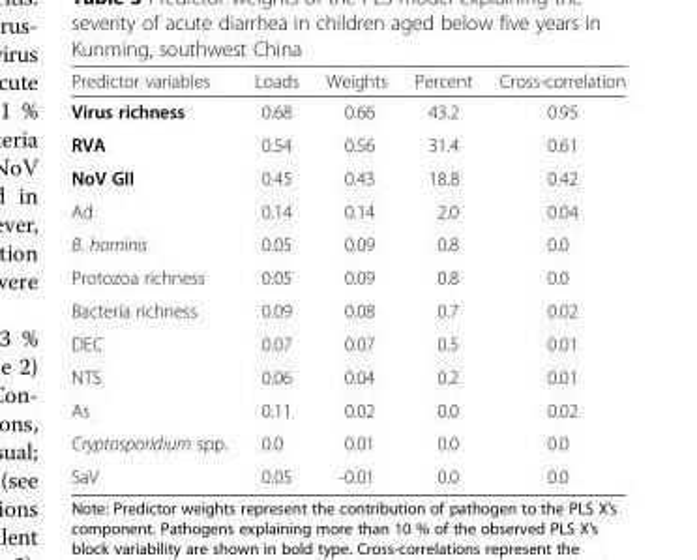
<table><thead><tr><td>Predictor variables</td><td>Loads</td><td>Weights</td><td>Percent</td><td>Cross-correlation</td></tr></thead><tbody><tr><td>Virus richness</td><td>0.68</td><td>0.66</td><td>43.2</td><td>0.95</td></tr><tr><td>RVA</td><td>0.54</td><td>0.56</td><td>31.4</td><td>0.61</td></tr><tr><td>NoV GII</td><td>0.45</td><td>0.43</td><td>18.8</td><td>0.42</td></tr><tr><td>Ad</td><td>0.14</td><td>0.14</td><td>2.0</td><td>0.04</td></tr><tr><td>B. hominis</td><td>0.05</td><td>0.09</td><td>0.8</td><td>0.0</td></tr><tr><td>Protozoa richness</td><td>0.05</td><td>0.09</td><td>0.8</td><td>0.0</td></tr><tr><td>Bacteria richness</td><td>0.09</td><td>0.08</td><td>0.7</td><td>0.02</td></tr><tr><td>DEC</td><td>0.07</td><td>0.07</td><td>0.5</td><td>0.01</td></tr><tr><td>NTS</td><td>0.06</td><td>0.04</td><td>0.2</td><td>0.01</td></tr><tr><td>As</td><td>0.11</td><td>0.02</td><td>0.0</td><td>0.02</td></tr><tr><td>Cryptosporidium spp.</td><td>0.0</td><td>0.01</td><td>0.0</td><td>0.0</td></tr><tr><td>SaV</td><td>0.05</td><td>-0.01</td><td>0.0</td><td>0.0</td></tr></tbody></table>